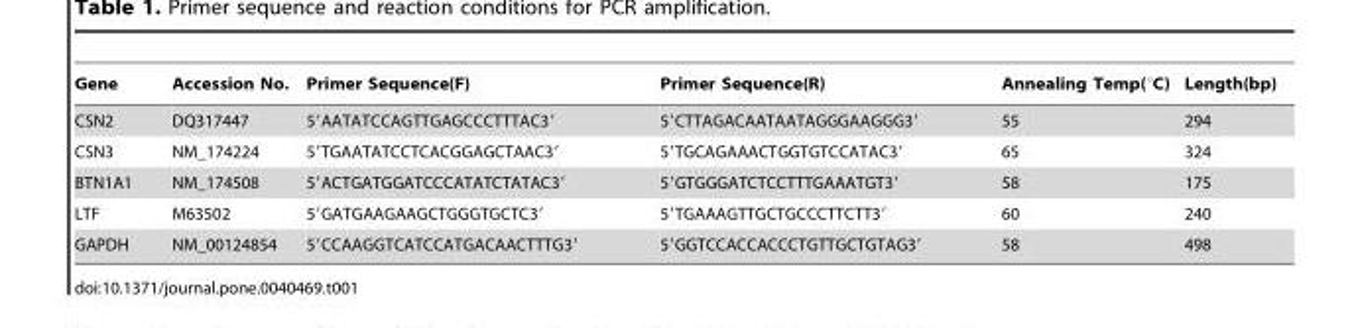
<table><thead><tr><td>Gene</td><td>Accession No.</td><td>Primer Sequence(F)</td><td>Primer Sequence(R)</td><td>Annealing Temp(°C)</td><td>Length(bp)</td></tr></thead><tbody><tr><td>CSN2</td><td>DQ317447</td><td>5′AATATCCAGTTGAGCCCTTTAC3′</td><td>5′CTTAGACAATAATAGGGAAGGG3′</td><td>55</td><td>294</td></tr><tr><td>CSN3</td><td>NM_174224</td><td>5′TGAATATCCTCACGGAGCTAAC3′</td><td>5′TGCAGAAACTGGTGTCCATAC3′</td><td>65</td><td>324</td></tr><tr><td>BTN1A1</td><td>NM_174508</td><td>5′ACTGATGGATCCCATATCTATAC3′</td><td>5′GTGGGATCTCCTTTGAAATGT3′</td><td>58</td><td>175</td></tr><tr><td>LTF</td><td>M63502</td><td>5′GATGAAGAAGCTGGGTGCTC3′</td><td>5′TGAAAGTTGCTGCCCTTCTT3′</td><td>60</td><td>240</td></tr><tr><td>GAPDH</td><td>NM_00124854</td><td>5′CCAAGGTCATCCATGACAACTTTG3′</td><td>5′GGTCCACCACCCTGTTGCTGTAG3′</td><td>58</td><td>498</td></tr></tbody></table>